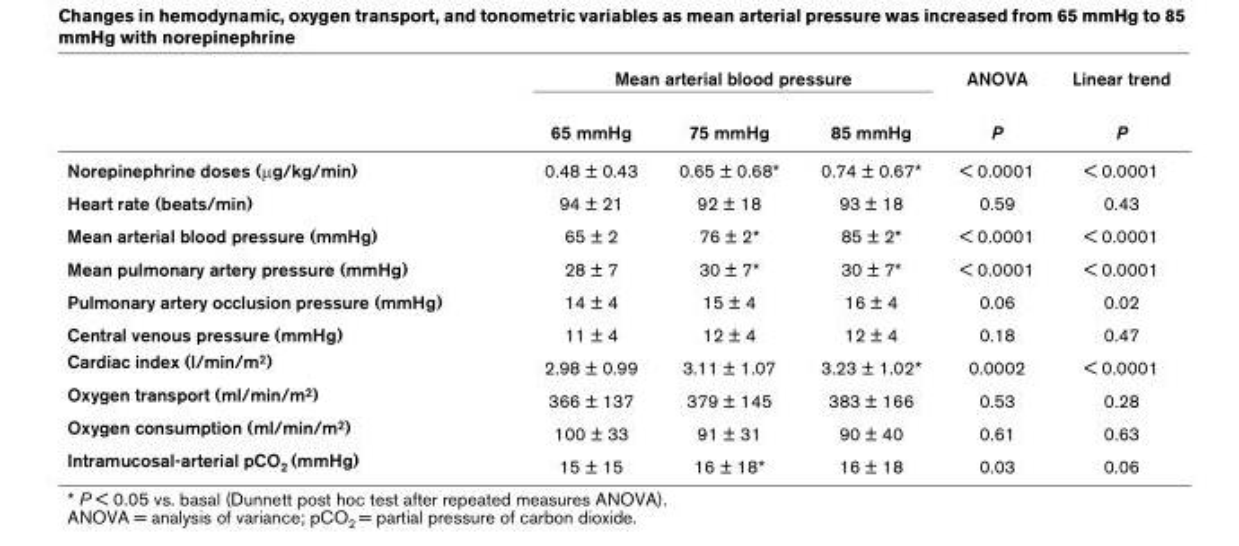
<table><thead><tr><td rowspan="2"></td><td colspan="3">Mean arterial blood pressure</td><td rowspan="2">ANOVA P</td><td rowspan="2">Linear trend P</td></tr><tr><td>65 mmHg</td><td>75 mmHg</td><td>85 mmHg</td></tr></thead><tbody><tr><td>Norepinephrine doses (μg/kg/min)</td><td>0.48 ± 0.43</td><td>0.65 ± 0.68*</td><td>0.74 ± 0.67*</td><td>&lt; 0.0001</td><td>&lt; 0.0001</td></tr><tr><td>Heart rate (beats/min)</td><td>94 ± 21</td><td>92 ± 18</td><td>93 ± 18</td><td>0.59</td><td>0.43</td></tr><tr><td>Mean arterial blood pressure (mmHg)</td><td>65 ± 2</td><td>76 ± 2*</td><td>85 ± 2*</td><td>&lt; 0.0001</td><td>&lt; 0.0001</td></tr><tr><td>Mean pulmonary artery pressure (mmHg)</td><td>28 ± 7</td><td>30 ± 7*</td><td>30 ± 7*</td><td>&lt; 0.0001</td><td>&lt; 0.0001</td></tr><tr><td>Pulmonary artery occlusion pressure (mmHg)</td><td>14 ± 4</td><td>15 ± 4</td><td>16 ± 4</td><td>0.06</td><td>0.02</td></tr><tr><td>Central venous pressure (mmHg)</td><td>11 ± 4</td><td>12 ± 4</td><td>12 ± 4</td><td>0.18</td><td>0.47</td></tr><tr><td>Cardiac index (l/min/m<sup>2</sup>)</td><td>2.98 ± 0.99</td><td>3.11 ± 1.07</td><td>3.23 ± 1.02*</td><td>0.0002</td><td>&lt; 0.0001</td></tr><tr><td>Oxygen transport (ml/min/m<sup>2</sup>)</td><td>366 ± 137</td><td>379 ± 145</td><td>383 ± 166</td><td>0.53</td><td>0.28</td></tr><tr><td>Oxygen consumption (ml/min/m<sup>2</sup>)</td><td>100 ± 33</td><td>91 ± 31</td><td>90 ± 40</td><td>0.61</td><td>0.63</td></tr><tr><td>Intramucosal-arterial pCO<sub>2</sub> (mmHg)</td><td>15 ± 15</td><td>16 ± 18*</td><td>16 ± 18</td><td>0.03</td><td>0.06</td></tr></tbody></table>